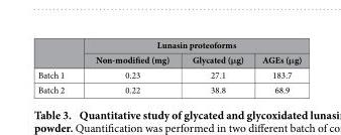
<table><thead><tr><td rowspan="2"></td><td colspan="3">Lunasin proteoforms</td></tr><tr><td>Non-modified (mg)</td><td>Glycated (μg)</td><td>AGEs (μg)</td></tr></thead><tbody><tr><td>Batch 1</td><td>0.23</td><td>27.1</td><td>183.7</td></tr><tr><td>Batch 2</td><td>0.22</td><td>38.8</td><td>68.9</td></tr></tbody></table>